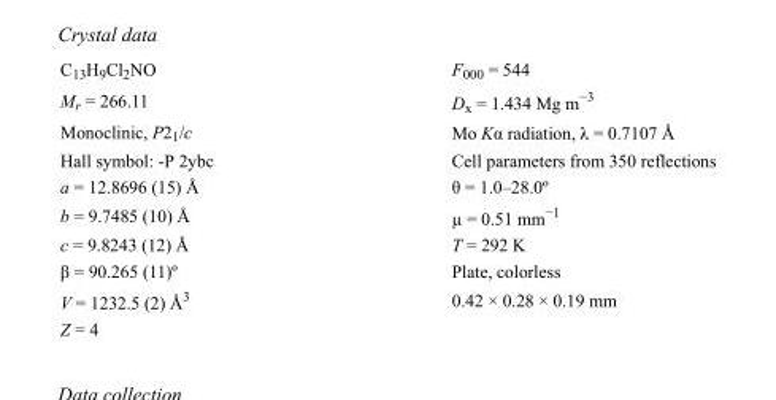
<table><tbody><tr><td>C<sub>13</sub>H<sub>9</sub>Cl<sub>2</sub>NO</td><td>F000 = 544</td></tr><tr><td>M<sub>r</sub> = 266.11</td><td>D<sub>x</sub> = 1.434 Mg m<sup>−3</sup></td></tr><tr><td>Monoclinic, P2<sub>1</sub>/c</td><td>Mo Kα radiation, λ = 0.7107 Å</td></tr><tr><td>Hall symbol: -P 2ybc</td><td>Cell parameters from 350 reflections</td></tr><tr><td>a = 12.8696 (15) Å</td><td>θ = 1.0–28.0º</td></tr><tr><td>b = 9.7485 (10) Å</td><td>µ = 0.51 mm<sup>−1</sup></td></tr><tr><td>c = 9.8243 (12) Å</td><td>T = 292 K</td></tr><tr><td>β = 90.265 (11)º</td><td>Plate, colorless</td></tr><tr><td>V = 1232.5 (2) Å<sup>3</sup></td><td>0.42 × 0.28 × 0.19 mm</td></tr><tr><td>Z = 4</td><td></td></tr></tbody></table>